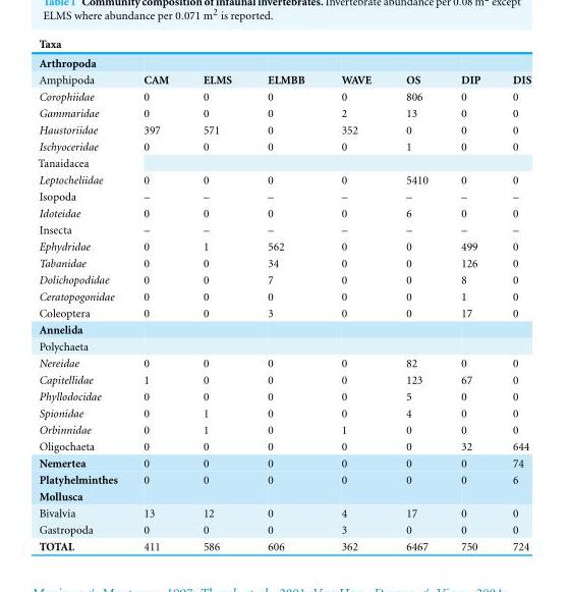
<table><thead><tr><td>Taxa</td><td></td><td></td><td></td><td></td><td></td><td></td><td></td></tr></thead><tbody><tr><td colspan="8">Arthropoda</td></tr><tr><td>Amphipoda</td><td>CAM</td><td>ELMS</td><td>ELMBB</td><td>WAVE</td><td>OS</td><td>DIP</td><td>DIS</td></tr><tr><td>Corophiidae</td><td>0</td><td>0</td><td>0</td><td>0</td><td>806</td><td>0</td><td>0</td></tr><tr><td>Gammaridae</td><td>0</td><td>0</td><td>0</td><td>2</td><td>13</td><td>0</td><td>0</td></tr><tr><td>Haustoriidae</td><td>397</td><td>571</td><td>0</td><td>352</td><td>0</td><td>0</td><td>0</td></tr><tr><td>Ischyoceridae</td><td>0</td><td>0</td><td>0</td><td>0</td><td>1</td><td>0</td><td>0</td></tr><tr><td colspan="8">Tanaidacea</td></tr><tr><td>Leptocheliidae</td><td>0</td><td>0</td><td>0</td><td>0</td><td>5410</td><td>0</td><td>0</td></tr><tr><td>Isopoda</td><td>–</td><td>–</td><td>–</td><td>–</td><td>–</td><td>–</td><td>–</td></tr><tr><td>Idoteidae</td><td>0</td><td>0</td><td>0</td><td>0</td><td>6</td><td>0</td><td>0</td></tr><tr><td>Insecta</td><td>–</td><td>–</td><td>–</td><td>–</td><td>–</td><td>–</td><td>–</td></tr><tr><td>Ephydridae</td><td>0</td><td>1</td><td>562</td><td>0</td><td>0</td><td>499</td><td>0</td></tr><tr><td>Tabanidae</td><td>0</td><td>0</td><td>34</td><td>0</td><td>0</td><td>126</td><td>0</td></tr><tr><td>Dolichopodidae</td><td>0</td><td>0</td><td>7</td><td>0</td><td>0</td><td>8</td><td>0</td></tr><tr><td>Ceratopogonidae</td><td>0</td><td>0</td><td>0</td><td>0</td><td>0</td><td>1</td><td>0</td></tr><tr><td>Coleoptera</td><td>0</td><td>0</td><td>3</td><td>0</td><td>0</td><td>17</td><td>0</td></tr><tr><td colspan="8">Annelida</td></tr><tr><td colspan="8">Polychaeta</td></tr><tr><td>Nereidae</td><td>0</td><td>0</td><td>0</td><td>0</td><td>82</td><td>0</td><td>0</td></tr><tr><td>Capitellidae</td><td>1</td><td>0</td><td>0</td><td>0</td><td>123</td><td>67</td><td>0</td></tr><tr><td>Phyllodocidae</td><td>0</td><td>0</td><td>0</td><td>0</td><td>5</td><td>0</td><td>0</td></tr><tr><td>Spionidae</td><td>0</td><td>1</td><td>0</td><td>0</td><td>4</td><td>0</td><td>0</td></tr><tr><td>Orbinnidae</td><td>0</td><td>1</td><td>0</td><td>1</td><td>0</td><td>0</td><td>0</td></tr><tr><td>Oligochaeta</td><td>0</td><td>0</td><td>0</td><td>0</td><td>0</td><td>32</td><td>644</td></tr><tr><td>Nemertea</td><td>0</td><td>0</td><td>0</td><td>0</td><td>0</td><td>0</td><td>74</td></tr><tr><td>Platyhelminthes</td><td>0</td><td>0</td><td>0</td><td>0</td><td>0</td><td>0</td><td>6</td></tr><tr><td colspan="8">Mollusca</td></tr><tr><td>Bivalvia</td><td>13</td><td>12</td><td>0</td><td>4</td><td>17</td><td>0</td><td>0</td></tr><tr><td>Gastropoda</td><td>0</td><td>0</td><td>0</td><td>3</td><td>0</td><td>0</td><td>0</td></tr><tr><td>TOTAL</td><td>411</td><td>586</td><td>606</td><td>362</td><td>6467</td><td>750</td><td>724</td></tr></tbody></table>